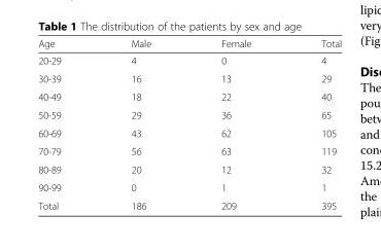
<table><thead><tr><td>Age</td><td>Male</td><td>Female</td><td>Total</td></tr></thead><tbody><tr><td>20-29</td><td>4</td><td>0</td><td>4</td></tr><tr><td>30-39</td><td>16</td><td>13</td><td>29</td></tr><tr><td>40-49</td><td>18</td><td>22</td><td>40</td></tr><tr><td>50-59</td><td>29</td><td>36</td><td>65</td></tr><tr><td>60-69</td><td>43</td><td>62</td><td>105</td></tr><tr><td>70-79</td><td>56</td><td>63</td><td>119</td></tr><tr><td>80-89</td><td>20</td><td>12</td><td>32</td></tr><tr><td>90-99</td><td>0</td><td>1</td><td>1</td></tr><tr><td>Total</td><td>186</td><td>209</td><td>395</td></tr></tbody></table>